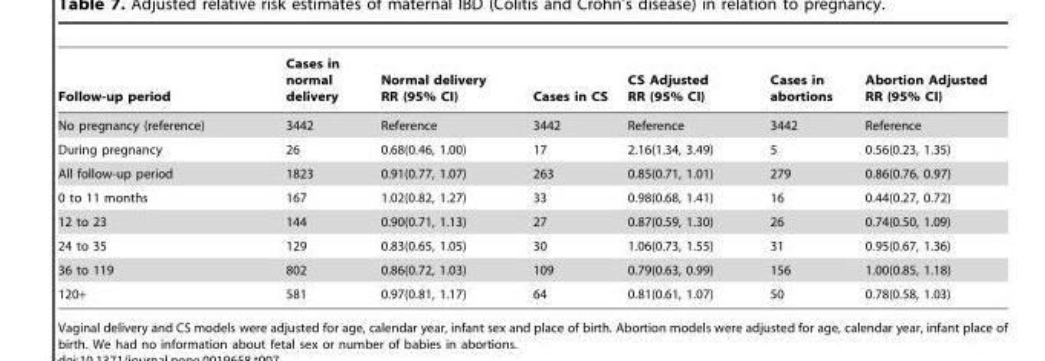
<table><thead><tr><td>Follow-up period</td><td>Cases in normal delivery</td><td>Normal delivery RR (95% CI)</td><td>Cases in CS</td><td>CS Adjusted RR (95% CI)</td><td>Cases in abortions</td><td>Abortion Adjusted RR (95% CI)</td></tr></thead><tbody><tr><td>No pregnancy (reference)</td><td>3442</td><td>Reference</td><td>3442</td><td>Reference</td><td>3442</td><td>Reference</td></tr><tr><td>During pregnancy</td><td>26</td><td>0.68(0.46, 1.00)</td><td>17</td><td>2.16(1.34, 3.49)</td><td>5</td><td>0.56(0.23, 1.35)</td></tr><tr><td>All follow-up period</td><td>1823</td><td>0.91(0.77, 1.07)</td><td>263</td><td>0.85(0.71, 1.01)</td><td>279</td><td>0.86(0.76, 0.97)</td></tr><tr><td>0 to 11 months</td><td>167</td><td>1.02(0.82, 1.27)</td><td>33</td><td>0.98(0.68, 1.41)</td><td>16</td><td>0.44(0.27, 0.72)</td></tr><tr><td>12 to 23</td><td>144</td><td>0.90(0.71, 1.13)</td><td>27</td><td>0.87(0.59, 1.30)</td><td>26</td><td>0.74(0.50, 1.09)</td></tr><tr><td>24 to 35</td><td>129</td><td>0.83(0.65, 1.05)</td><td>30</td><td>1.06(0.73, 1.55)</td><td>31</td><td>0.95(0.67, 1.36)</td></tr><tr><td>36 to 119</td><td>802</td><td>0.86(0.72, 1.03)</td><td>109</td><td>0.79(0.63, 0.99)</td><td>156</td><td>1.00(0.85, 1.18)</td></tr><tr><td>120+</td><td>581</td><td>0.97(0.81, 1.17)</td><td>64</td><td>0.81(0.61, 1.07)</td><td>50</td><td>0.78(0.58, 1.03)</td></tr></tbody></table>